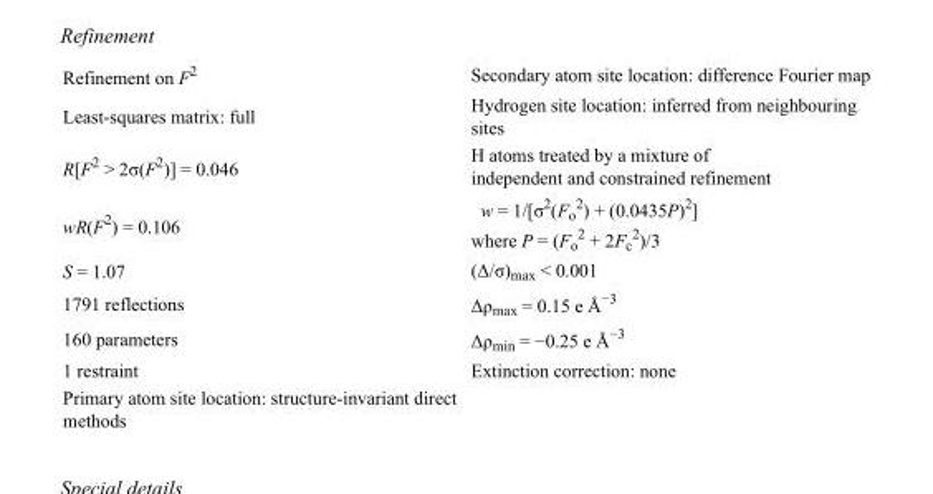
<table><tbody><tr><td>Refinement on F<sup>2</sup></td><td>Secondary atom site location: difference Fourier map</td></tr><tr><td>Least-squares matrix: full</td><td>Hydrogen site location: inferred from neighbouring sites</td></tr><tr><td>R[F<sup>2</sup> &gt; 2σ(F<sup>2</sup>)] = 0.046</td><td>H atoms treated by a mixture of independent and constrained refinement</td></tr><tr><td>wR(F<sup>2</sup>) = 0.106</td><td>w = 1/[σ<sup>2</sup>(F<sub>o</sub> <sup>2</sup>) + (0.0435P)<sup>2</sup>] where P = (F<sub>o</sub> <sup>2</sup> + 2F<sub>c</sub> <sup>2</sup>)/3</td></tr><tr><td>S = 1.07</td><td>(Δ/σ)<sub>max</sub> &lt; 0.001</td></tr><tr><td>1791 reflections</td><td>Δρ<sub>max</sub> = 0.15 e Å<sup>−3</sup></td></tr><tr><td>160 parameters</td><td>Δρ<sub>min</sub> = −0.25 e Å<sup>−3</sup></td></tr><tr><td>1 restraint</td><td>Extinction correction: none</td></tr><tr><td>Primary atom site location: structure-invariant direct methods</td><td></td></tr></tbody></table>